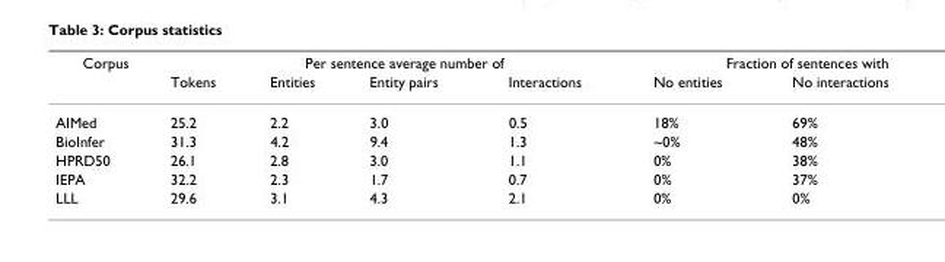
<table><thead><tr><td rowspan="2">Corpus</td><td colspan="4">Per sentence average number of</td><td colspan="2">Fraction of sentences with</td></tr><tr><td>Tokens</td><td>Entities</td><td>Entity pairs</td><td>Interactions</td><td>No entities</td><td>No interactions</td></tr></thead><tbody><tr><td>AIMed</td><td>25.2</td><td>2.2</td><td>3.0</td><td>0.5</td><td>18%</td><td>69%</td></tr><tr><td>BioInfer</td><td>31.3</td><td>4.2</td><td>9.4</td><td>1.3</td><td>~0%</td><td>48%</td></tr><tr><td>HPRD50</td><td>26.1</td><td>2.8</td><td>3.0</td><td>1.1</td><td>0%</td><td>38%</td></tr><tr><td>IEPA</td><td>32.2</td><td>2.3</td><td>1.7</td><td>0.7</td><td>0%</td><td>37%</td></tr><tr><td>LLL</td><td>29.6</td><td>3.1</td><td>4.3</td><td>2.1</td><td>0%</td><td>0%</td></tr></tbody></table>